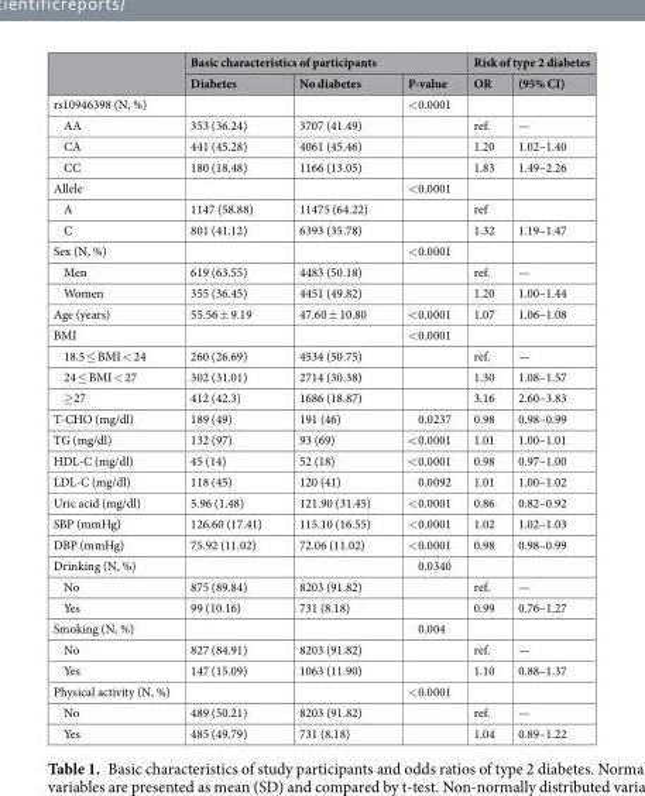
<table><thead><tr><td rowspan="2"></td><td colspan="3">Basic characteristics of participants</td><td colspan="2">Risk of type 2 diabetes</td></tr><tr><td>Diabetes</td><td>No diabetes</td><td>P-value</td><td>OR</td><td>(95% CI)</td></tr></thead><tbody><tr><td>rs10946398 (N, %)</td><td></td><td></td><td>&lt;0.0001</td><td></td><td></td></tr><tr><td>AA</td><td>353 (36.24)</td><td>3707 (41.49)</td><td></td><td>ref.</td><td>—</td></tr><tr><td>CA</td><td>441 (45.28)</td><td>4061 (45.46)</td><td></td><td>1.20</td><td>1.02–1.40</td></tr><tr><td>CC</td><td>180 (18.48)</td><td>1166 (13.05)</td><td></td><td>1.83</td><td>1.49–2.26</td></tr><tr><td>Allele</td><td></td><td></td><td>&lt;0.0001</td><td></td><td></td></tr><tr><td>A</td><td>1147 (58.88)</td><td>11475 (64.22)</td><td></td><td>ref</td><td></td></tr><tr><td>C</td><td>801 (41.12)</td><td>6393 (35.78)</td><td></td><td>1.32</td><td>1.19–1.47</td></tr><tr><td>Sex (N, %)</td><td></td><td></td><td>&lt;0.0001</td><td></td><td></td></tr><tr><td>Men</td><td>619 (63.55)</td><td>4483 (50.18)</td><td></td><td>ref.</td><td>—</td></tr><tr><td>Women</td><td>355 (36.45)</td><td>4451 (49.82)</td><td></td><td>1.20</td><td>1.00–1.44</td></tr><tr><td>Age (years)</td><td>55.56 ± 9.19</td><td>47.60 ± 10.80</td><td>&lt;0.0001</td><td>1.07</td><td>1.06–1.08</td></tr><tr><td>BMI</td><td></td><td></td><td>&lt;0.0001</td><td></td><td></td></tr><tr><td>18.5 ≤ BMI &lt; 24</td><td>260 (26.69)</td><td>4534 (50.75)</td><td></td><td>ref.</td><td>—</td></tr><tr><td>24 ≤ BMI &lt; 27</td><td>302 (31.01)</td><td>2714 (30.38)</td><td></td><td>1.30</td><td>1.08–1.57</td></tr><tr><td>≥27</td><td>412 (42.3)</td><td>1686 (18.87)</td><td></td><td>3.16</td><td>2.60–3.83</td></tr><tr><td>T-CHO (mg/dl)</td><td>189 (49)</td><td>191 (46)</td><td>0.0237</td><td>0.98</td><td>0.98–0.99</td></tr><tr><td>TG (mg/dl)</td><td>132 (97)</td><td>93 (69)</td><td>&lt;0.0001</td><td>1.01</td><td>1.00–1.01</td></tr><tr><td>HDL-C (mg/dl)</td><td>45 (14)</td><td>52 (18)</td><td>&lt;0.0001</td><td>0.98</td><td>0.97–1.00</td></tr><tr><td>LDL-C (mg/dl)</td><td>118 (45)</td><td>120 (41)</td><td>0.0092</td><td>1.01</td><td>1.00–1.02</td></tr><tr><td>Uric acid (mg/dl)</td><td>5.96 (1.48)</td><td>121.90 (31.45)</td><td>&lt;0.0001</td><td>0.86</td><td>0.82–0.92</td></tr><tr><td>SBP (mmHg)</td><td>126.60 (17.41)</td><td>115.10 (16.55)</td><td>&lt;0.0001</td><td>1.02</td><td>1.02–1.03</td></tr><tr><td>DBP (mmHg)</td><td>75.92 (11.02)</td><td>72.06 (11.02)</td><td>&lt;0.0001</td><td>0.98</td><td>0.98–0.99</td></tr><tr><td>Drinking (N, %)</td><td></td><td></td><td>0.0340</td><td></td><td></td></tr><tr><td>No</td><td>875 (89.84)</td><td>8203 (91.82)</td><td></td><td>ref.</td><td>—</td></tr><tr><td>Yes</td><td>99 (10.16)</td><td>731 (8.18)</td><td></td><td>0.99</td><td>0.76–1.27</td></tr><tr><td>Smoking (N, %)</td><td></td><td></td><td>0.004</td><td></td><td></td></tr><tr><td>No</td><td>827 (84.91)</td><td>8203 (91.82)</td><td></td><td>ref.</td><td>—</td></tr><tr><td>Yes</td><td>147 (15.09)</td><td>1063 (11.90)</td><td></td><td>1.10</td><td>0.88–1.37</td></tr><tr><td>Physical activity (N, %)</td><td></td><td></td><td>&lt;0.0001</td><td></td><td></td></tr><tr><td>No</td><td>489 (50.21)</td><td>8203 (91.82)</td><td></td><td>ref.</td><td>—</td></tr><tr><td>Yes</td><td>485 (49.79)</td><td>731 (8.18)</td><td></td><td>1.04</td><td>0.89–1.22</td></tr></tbody></table>